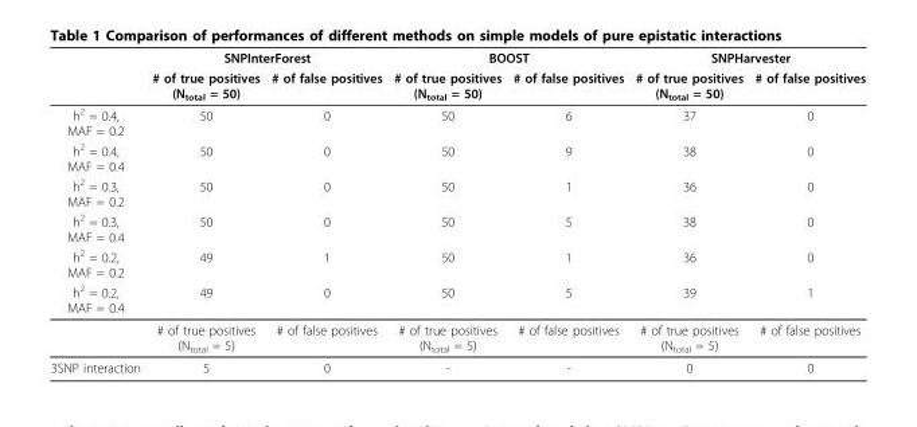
<table><thead><tr><td rowspan="2"></td><td colspan="2">SNPInterForest</td><td colspan="2">BOOST</td><td colspan="2">SNPHarvester</td></tr><tr><td># of true positives (N<sub>total</sub> = 50)</td><td># of false positives</td><td># of true positives (N<sub>total</sub> = 50)</td><td># of false positives</td><td># of true positives (N<sub>total</sub> = 50)</td><td># of false positives</td></tr></thead><tbody><tr><td>h<sup>2</sup> = 0.4, MAF = 0.2</td><td>50</td><td>0</td><td>50</td><td>6</td><td>37</td><td>0</td></tr><tr><td>h<sup>2</sup> = 0.4, MAF = 0.4</td><td>50</td><td>0</td><td>50</td><td>9</td><td>38</td><td>0</td></tr><tr><td>h<sup>2</sup> = 0.3, MAF = 0.2</td><td>50</td><td>0</td><td>50</td><td>1</td><td>36</td><td>0</td></tr><tr><td>h<sup>2</sup> = 0.3, MAF = 0.4</td><td>50</td><td>0</td><td>50</td><td>5</td><td>38</td><td>0</td></tr><tr><td>h<sup>2</sup> = 0.2, MAF = 0.2</td><td>49</td><td>1</td><td>50</td><td>1</td><td>36</td><td>0</td></tr><tr><td rowspan="2">h<sup>2</sup> = 0.2, MAF = 0.4</td><td>49</td><td>0</td><td>50</td><td>5</td><td>39</td><td>1</td></tr><tr><td># of true positives (N<sub>total</sub> = 5)</td><td># of false positives</td><td># of true positives (N<sub>total</sub> = 5)</td><td># of false positives</td><td># of true positives (N<sub>total</sub> = 5)</td><td># of false positives</td></tr><tr><td>3SNP interaction</td><td>5</td><td>0</td><td>-</td><td>-</td><td>0</td><td>0</td></tr></tbody></table>